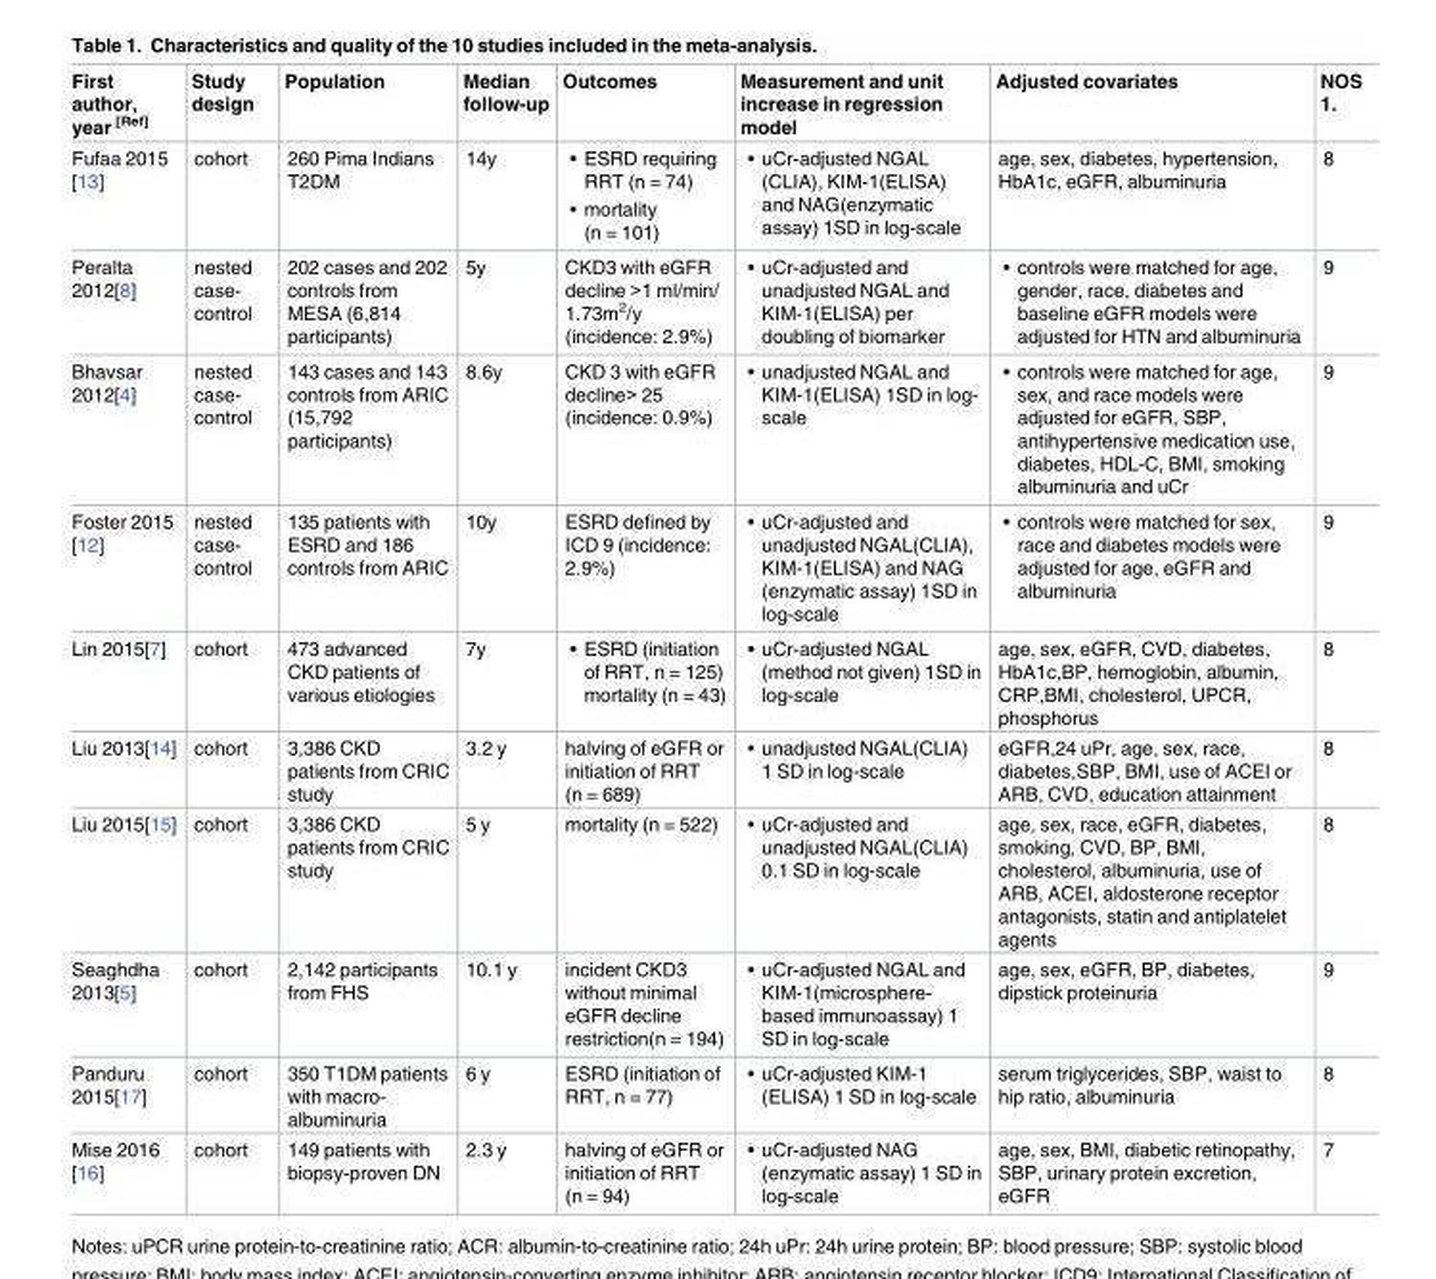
<table><thead><tr><td>First author, year <sup>[Ref]</sup></td><td>Study design</td><td>Population</td><td>Median follow-up</td><td>Outcomes</td><td>Measurement and unit increase in regression model</td><td>Adjusted covariates</td><td>NOS 1.</td></tr></thead><tbody><tr><td>Fufaa 2015 [13]</td><td>cohort</td><td>260 Pima Indians T2DM</td><td>14y</td><td>• ESRD requiring RRT (n = 74) • mortality (n = 101)</td><td>• uCr-adjusted NGAL (CLIA), KIM-1(ELISA) and NAG(enzymatic assay) 1SD in log-scale</td><td>age, sex, diabetes, hypertension, HbA1c, eGFR, albuminuria</td><td>8</td></tr><tr><td>Peralta 2012[8]</td><td>nested case- control</td><td>202 cases and 202 controls from MESA (6,814 participants)</td><td>5y</td><td>CKD3 with eGFR decline &gt;1 ml/min/ 1.73m<sup>2</sup>/y (incidence: 2.9%)</td><td>• uCr-adjusted and unadjusted NGAL and KIM-1(ELISA) per doubling of biomarker</td><td>• controls were matched for age, gender, race, diabetes and baseline eGFR models were adjusted for HTN and albuminuria</td><td>9</td></tr><tr><td>Bhavsar 2012[4]</td><td>nested case- control</td><td>143 cases and 143 controls from ARIC (15,792 participants)</td><td>8.6y</td><td>CKD 3 with eGFR decline&gt; 25 (incidence: 0.9%)</td><td>• unadjusted NGAL and KIM-1(ELISA) 1SD in log- scale</td><td>• controls were matched for age, sex, and race models were adjusted for eGFR, SBP, antihypertensive medication use, diabetes, HDL-C, BMI, smoking albuminuria and uCr</td><td>9</td></tr><tr><td>Foster 2015 [12]</td><td>nested case- control</td><td>135 patients with ESRD and 186 controls from ARIC</td><td>10y</td><td>ESRD defined by ICD 9 (incidence: 2.9%)</td><td>• uCr-adjusted and unadjusted NGAL(CLIA), KIM-1(ELISA) and NAG (enzymatic assay) 1SD in log-scale</td><td>• controls were matched for sex, race and diabetes models were adjusted for age, eGFR and albuminuria</td><td>9</td></tr><tr><td>Lin 2015[7]</td><td>cohort</td><td>473 advanced CKD patients of various etiologies</td><td>7y</td><td>• ESRD (initiation of RRT, n = 125) mortality (n = 43)</td><td>• uCr-adjusted NGAL (method not given) 1SD in log-scale</td><td>age, sex, eGFR, CVD, diabetes, HbA1c,BP, hemoglobin, albumin, CRP,BMI, cholesterol, UPCR, phosphorus</td><td>8</td></tr><tr><td>Liu 2013[14]</td><td>cohort</td><td>3,386 CKD patients from CRIC study</td><td>3.2 y</td><td>halving of eGFR or initiation of RRT (n = 689)</td><td>• unadjusted NGAL(CLIA) 1 SD in log-scale</td><td>eGFR,24 uPr, age, sex, race, diabetes,SBP, BMI, use of ACEI or ARB, CVD, education attainment</td><td>8</td></tr><tr><td>Liu 2015[15]</td><td>cohort</td><td>3,386 CKD patients from CRIC study</td><td>5 y</td><td>mortality (n = 522)</td><td>• uCr-adjusted and unadjusted NGAL(CLIA) 0.1 SD in log-scale</td><td>age, sex, race, eGFR, diabetes, smoking, CVD, BP, BMI, cholesterol, albuminuria, use of ARB, ACEI, aldosterone receptor antagonists, statin and antiplatelet agents</td><td>8</td></tr><tr><td>Seaghdha 2013[5]</td><td>cohort</td><td>2,142 participants from FHS</td><td>10.1 y</td><td>incident CKD3 without minimal eGFR decline restriction(n = 194)</td><td>• uCr-adjusted NGAL and KIM-1(microsphere- based immunoassay) 1 SD in log-scale</td><td>age, sex, eGFR, BP, diabetes, dipstick proteinuria</td><td>9</td></tr><tr><td>Panduru 2015[17]</td><td>cohort</td><td>350 T1DM patients with macro- albuminuria</td><td>6 y</td><td>ESRD (initiation of RRT, n = 77)</td><td>• uCr-adjusted KIM-1 (ELISA) 1 SD in log-scale</td><td>serum triglycerides, SBP, waist to hip ratio, albuminuria</td><td>8</td></tr><tr><td>Mise 2016 [16]</td><td>cohort</td><td>149 patients with biopsy-proven DN</td><td>2.3 y</td><td>halving of eGFR or initiation of RRT (n = 94)</td><td>• uCr-adjusted NAG (enzymatic assay) 1 SD in log-scale</td><td>age, sex, BMI, diabetic retinopathy, SBP, urinary protein excretion, eGFR</td><td>7</td></tr></tbody></table>